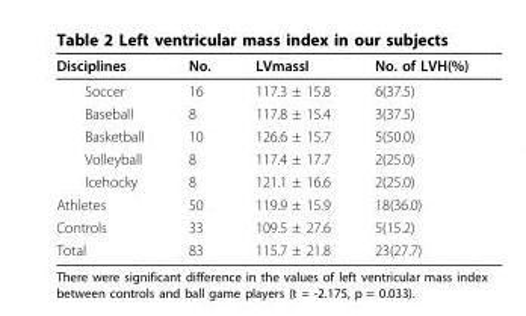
<table><thead><tr><td>Disciplines</td><td>No.</td><td>LVmassI</td><td>No. of LVH(%)</td></tr></thead><tbody><tr><td>Soccer</td><td>16</td><td>117.3 ± 15.8</td><td>6(37.5)</td></tr><tr><td>Baseball</td><td>8</td><td>117.8 ± 15.4</td><td>3(37.5)</td></tr><tr><td>Basketball</td><td>10</td><td>126.6 ± 15.7</td><td>5(50.0)</td></tr><tr><td>Volleyball</td><td>8</td><td>117.4 ± 17.7</td><td>2(25.0)</td></tr><tr><td>Icehocky</td><td>8</td><td>121.1 ± 16.6</td><td>2(25.0)</td></tr><tr><td>Athletes</td><td>50</td><td>119.9 ± 15.9</td><td>18(36.0)</td></tr><tr><td>Controls</td><td>33</td><td>109.5 ± 27.6</td><td>5(15.2)</td></tr><tr><td>Total</td><td>83</td><td>115.7 ± 21.8</td><td>23(27.7)</td></tr></tbody></table>